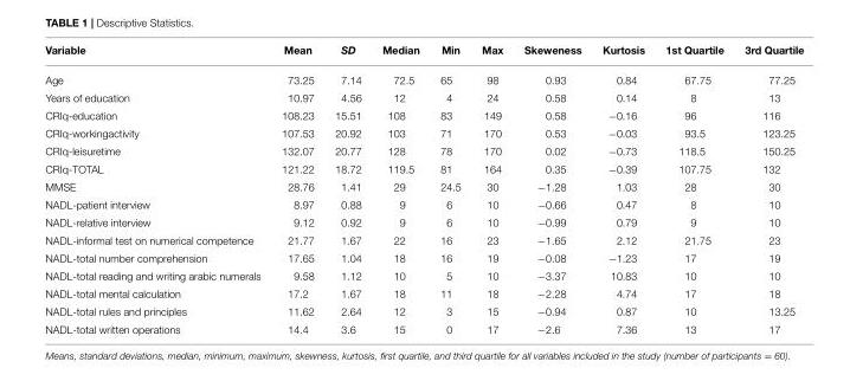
<table><thead><tr><td>Variable</td><td>Mean</td><td>SD</td><td>Median</td><td>Min</td><td>Max</td><td>Skeweness</td><td>Kurtosis</td><td>1st Quartile</td><td>3rd Quartile</td></tr></thead><tbody><tr><td>Age</td><td>73.25</td><td>7.14</td><td>72.5</td><td>65</td><td>98</td><td>0.93</td><td>0.84</td><td>67.75</td><td>77.25</td></tr><tr><td>Years of education</td><td>10.97</td><td>4.56</td><td>12</td><td>4</td><td>24</td><td>0.58</td><td>0.14</td><td>8</td><td>13</td></tr><tr><td>CRIq-education</td><td>108.23</td><td>15.51</td><td>108</td><td>83</td><td>149</td><td>0.58</td><td>−0.16</td><td>96</td><td>116</td></tr><tr><td>CRIq-workingactivity</td><td>107.53</td><td>20.92</td><td>103</td><td>71</td><td>170</td><td>0.53</td><td>−0.03</td><td>93.5</td><td>123.25</td></tr><tr><td>CRIq-leisuretime</td><td>132.07</td><td>20.77</td><td>128</td><td>78</td><td>170</td><td>0.02</td><td>−0.73</td><td>118.5</td><td>150.25</td></tr><tr><td>CRIq-TOTAL</td><td>121.22</td><td>18.72</td><td>119.5</td><td>81</td><td>164</td><td>0.35</td><td>−0.39</td><td>107.75</td><td>132</td></tr><tr><td>MMSE</td><td>28.76</td><td>1.41</td><td>29</td><td>24.5</td><td>30</td><td>−1.28</td><td>1.03</td><td>28</td><td>30</td></tr><tr><td>NADL-patient interview</td><td>8.97</td><td>0.88</td><td>9</td><td>6</td><td>10</td><td>−0.66</td><td>0.47</td><td>8</td><td>10</td></tr><tr><td>NADL-relative interview</td><td>9.12</td><td>0.92</td><td>9</td><td>6</td><td>10</td><td>−0.99</td><td>0.79</td><td>9</td><td>10</td></tr><tr><td>NADL-informal test on numerical competence</td><td>21.77</td><td>1.67</td><td>22</td><td>16</td><td>23</td><td>−1.65</td><td>2.12</td><td>21.75</td><td>23</td></tr><tr><td>NADL-total number comprehension</td><td>17.65</td><td>1.04</td><td>18</td><td>16</td><td>19</td><td>−0.08</td><td>−1.23</td><td>17</td><td>19</td></tr><tr><td>NADL-total reading and writing arabic numerals</td><td>9.58</td><td>1.12</td><td>10</td><td>5</td><td>10</td><td>−3.37</td><td>10.83</td><td>10</td><td>10</td></tr><tr><td>NADL-total mental calculation</td><td>17.2</td><td>1.67</td><td>18</td><td>11</td><td>18</td><td>−2.28</td><td>4.74</td><td>17</td><td>18</td></tr><tr><td>NADL-total rules and principles</td><td>11.62</td><td>2.64</td><td>12</td><td>3</td><td>15</td><td>−0.94</td><td>0.87</td><td>10</td><td>13.25</td></tr><tr><td>NADL-total written operations</td><td>14.4</td><td>3.6</td><td>15</td><td>0</td><td>17</td><td>−2.6</td><td>7.36</td><td>13</td><td>17</td></tr></tbody></table>